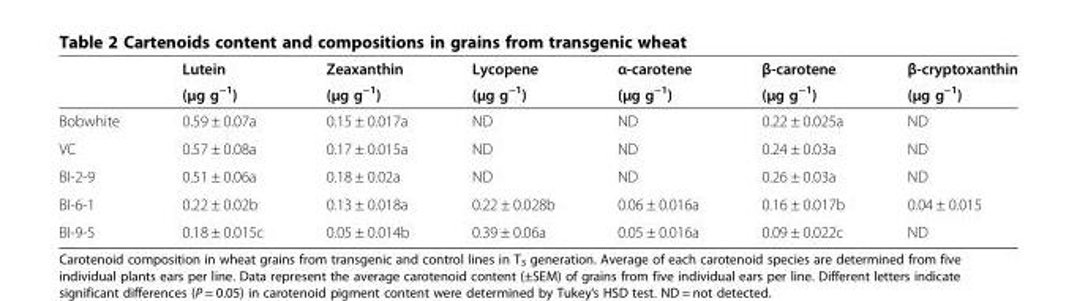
<table><thead><tr><td rowspan="2"></td><td rowspan="2">Lutein (μg g<sup>−1</sup>)</td><td rowspan="2">Zeaxanthin (μg g<sup>−1</sup>)</td><td rowspan="2">Lycopene (μg g<sup>−1</sup>)</td><td rowspan="2">α-carotene (μg g<sup>−1</sup>)</td><td rowspan="2">β-carotene (μg g<sup>−1</sup>)</td><td rowspan="2">β-cryptoxanthin (μg g<sup>−1</sup>)</td></tr><tr></tr></thead><tbody><tr><td>Bobwhite</td><td>0.59 ± 0.07a</td><td>0.15 ± 0.017a</td><td>ND</td><td>ND</td><td>0.22 ± 0.025a</td><td>ND</td></tr><tr><td>VC</td><td>0.57 ± 0.08a</td><td>0.17 ± 0.015a</td><td>ND</td><td>ND</td><td>0.24 ± 0.03a</td><td>ND</td></tr><tr><td>BI-2-9</td><td>0.51 ± 0.06a</td><td>0.18 ± 0.02a</td><td>ND</td><td>ND</td><td>0.26 ± 0.03a</td><td>ND</td></tr><tr><td>BI-6-1</td><td>0.22 ± 0.02b</td><td>0.13 ± 0.018a</td><td>0.22 ± 0.028b</td><td>0.06 ± 0.016a</td><td>0.16 ± 0.017b</td><td>0.04 ± 0.015</td></tr><tr><td>BI-9-5</td><td>0.18 ± 0.015c</td><td>0.05 ± 0.014b</td><td>0.39 ± 0.06a</td><td>0.05 ± 0.016a</td><td>0.09 ± 0.022c</td><td>ND</td></tr></tbody></table>